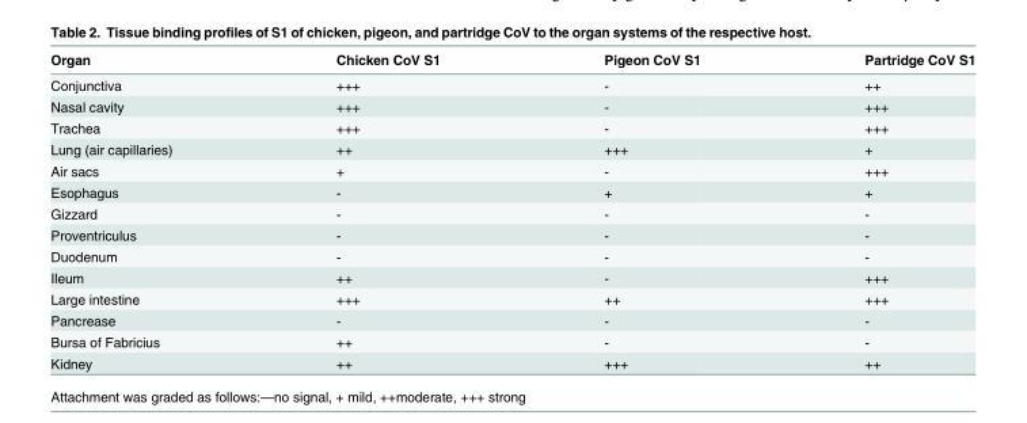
<table><thead><tr><td>Organ</td><td>Chicken CoV S1</td><td>Pigeon CoV S1</td><td>Partridge CoV S1</td></tr></thead><tbody><tr><td>Conjunctiva</td><td>+++</td><td>-</td><td>++</td></tr><tr><td>Nasal cavity</td><td>+++</td><td>-</td><td>+++</td></tr><tr><td>Trachea</td><td>+++</td><td>-</td><td>+++</td></tr><tr><td>Lung (air capillaries)</td><td>++</td><td>+++</td><td>+</td></tr><tr><td>Air sacs</td><td>+</td><td>-</td><td>+++</td></tr><tr><td>Esophagus</td><td>-</td><td>+</td><td>+</td></tr><tr><td>Gizzard</td><td>-</td><td>-</td><td>-</td></tr><tr><td>Proventriculus</td><td>-</td><td>-</td><td>-</td></tr><tr><td>Duodenum</td><td>-</td><td>-</td><td>-</td></tr><tr><td>Ileum</td><td>++</td><td>-</td><td>+++</td></tr><tr><td>Large intestine</td><td>+++</td><td>++</td><td>+++</td></tr><tr><td>Pancrease</td><td>-</td><td>-</td><td>-</td></tr><tr><td>Bursa of Fabricius</td><td>++</td><td>-</td><td>-</td></tr><tr><td>Kidney</td><td>++</td><td>+++</td><td>++</td></tr></tbody></table>